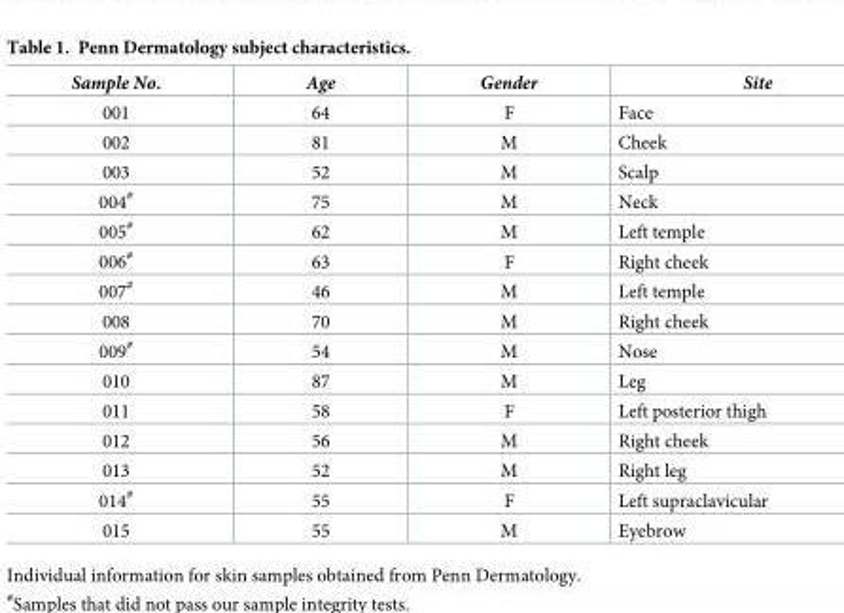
<table><thead><tr><td>Sample No.</td><td>Age</td><td>Gender</td><td>Site</td></tr></thead><tbody><tr><td>001</td><td>64</td><td>F</td><td>Face</td></tr><tr><td>002</td><td>81</td><td>M</td><td>Cheek</td></tr><tr><td>003</td><td>52</td><td>M</td><td>Scalp</td></tr><tr><td>004<sup>#</sup></td><td>75</td><td>M</td><td>Neck</td></tr><tr><td>005<sup>#</sup></td><td>62</td><td>M</td><td>Left temple</td></tr><tr><td>006<sup>#</sup></td><td>63</td><td>F</td><td>Right cheek</td></tr><tr><td>007<sup>#</sup></td><td>46</td><td>M</td><td>Left temple</td></tr><tr><td>008</td><td>70</td><td>M</td><td>Right cheek</td></tr><tr><td>009<sup>#</sup></td><td>54</td><td>M</td><td>Nose</td></tr><tr><td>010</td><td>87</td><td>M</td><td>Leg</td></tr><tr><td>011</td><td>58</td><td>F</td><td>Left posterior thigh</td></tr><tr><td>012</td><td>56</td><td>M</td><td>Right cheek</td></tr><tr><td>013</td><td>52</td><td>M</td><td>Right leg</td></tr><tr><td>014<sup>#</sup></td><td>55</td><td>F</td><td>Left supraclavicular</td></tr><tr><td>015</td><td>55</td><td>M</td><td>Eyebrow</td></tr></tbody></table>